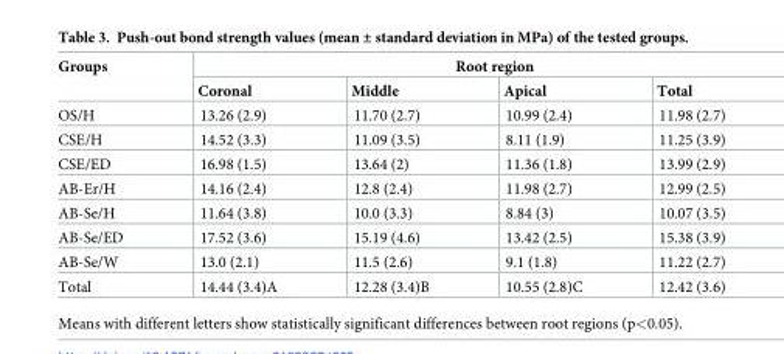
<table><thead><tr><td rowspan="2">Groups</td><td colspan="4">Root region</td></tr><tr><td>Coronal</td><td>Middle</td><td>Apical</td><td>Total</td></tr></thead><tbody><tr><td>OS/H</td><td>13.26 (2.9)</td><td>11.70 (2.7)</td><td>10.99 (2.4)</td><td>11.98 (2.7)</td></tr><tr><td>CSE/H</td><td>14.52 (3.3)</td><td>11.09 (3.5)</td><td>8.11 (1.9)</td><td>11.25 (3.9)</td></tr><tr><td>CSE/ED</td><td>16.98 (1.5)</td><td>13.64 (2)</td><td>11.36 (1.8)</td><td>13.99 (2.9)</td></tr><tr><td>AB-Er/H</td><td>14.16 (2.4)</td><td>12.8 (2.4)</td><td>11.98 (2.7)</td><td>12.99 (2.5)</td></tr><tr><td>AB-Se/H</td><td>11.64 (3.8)</td><td>10.0 (3.3)</td><td>8.84 (3)</td><td>10.07 (3.5)</td></tr><tr><td>AB-Se/ED</td><td>17.52 (3.6)</td><td>15.19 (4.6)</td><td>13.42 (2.5)</td><td>15.38 (3.9)</td></tr><tr><td>AB-Se/W</td><td>13.0 (2.1)</td><td>11.5 (2.6)</td><td>9.1 (1.8)</td><td>11.22 (2.7)</td></tr><tr><td>Total</td><td>14.44 (3.4)A</td><td>12.28 (3.4)B</td><td>10.55 (2.8)C</td><td>12.42 (3.6)</td></tr></tbody></table>